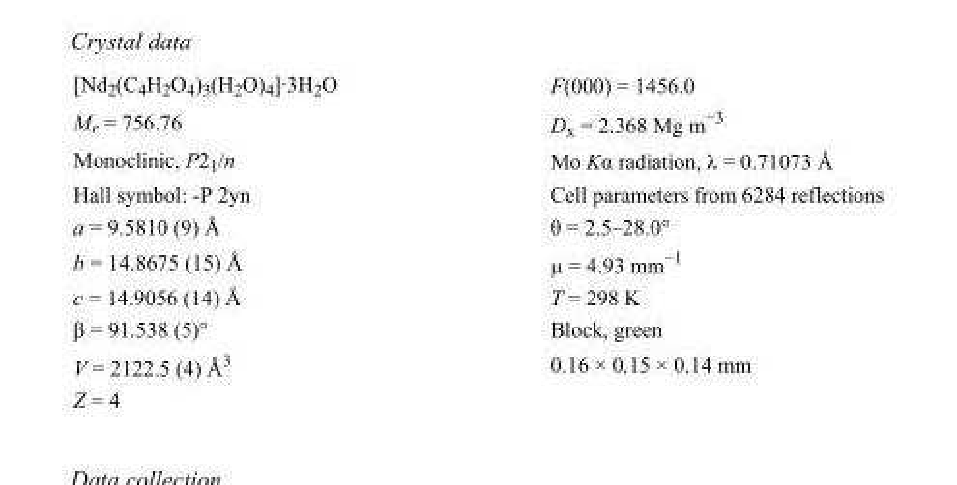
<table><tbody><tr><td>[Nd<sub>2</sub>(C<sub>4</sub>H<sub>2</sub>O<sub>4</sub>)<sub>3</sub>(H<sub>2</sub>O)<sub>4</sub>]·3H<sub>2</sub>O</td><td>F(000) = 1456.0</td></tr><tr><td>M<sub>r</sub> = 756.76</td><td>D<sub>x</sub> = 2.368 Mg m<sup>−3</sup></td></tr><tr><td>Monoclinic, P2<sub>1</sub>/n</td><td>Mo Kα radiation, λ = 0.71073 Å</td></tr><tr><td>Hall symbol: -P 2yn</td><td>Cell parameters from 6284 reflections</td></tr><tr><td>a = 9.5810 (9) Å</td><td>θ = 2.5–28.0°</td></tr><tr><td>b = 14.8675 (15) Å</td><td>µ = 4.93 mm<sup>−1</sup></td></tr><tr><td>c = 14.9056 (14) Å</td><td>T = 298 K</td></tr><tr><td>β = 91.538 (5)°</td><td>Block, green</td></tr><tr><td>V = 2122.5 (4) Å<sup>3</sup></td><td>0.16 × 0.15 × 0.14 mm</td></tr><tr><td>Z = 4</td><td></td></tr></tbody></table>